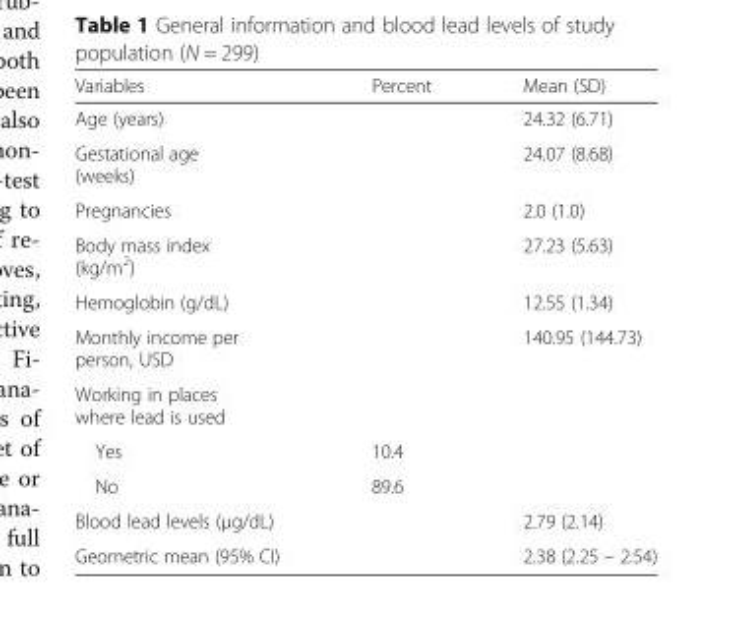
<table><thead><tr><td>Variables</td><td>Percent</td><td>Mean (SD)</td></tr></thead><tbody><tr><td>Age (years)</td><td></td><td>24.32 (6.71)</td></tr><tr><td>Gestational age (weeks)</td><td></td><td>24.07 (8.68)</td></tr><tr><td>Pregnancies</td><td></td><td>2.0 (1.0)</td></tr><tr><td>Body mass index (kg/m<sup>2</sup>)</td><td></td><td>27.23 (5.63)</td></tr><tr><td>Hemoglobin (g/dL)</td><td></td><td>12.55 (1.34)</td></tr><tr><td>Monthly income per person, USD</td><td></td><td>140.95 (144.73)</td></tr><tr><td colspan="3">Working in places where lead is used</td></tr><tr><td>Yes</td><td>10.4</td><td></td></tr><tr><td>No</td><td>89.6</td><td></td></tr><tr><td>Blood lead levels (μg/dL)</td><td></td><td>2.79 (2.14)</td></tr><tr><td>Geometric mean (95% CI)</td><td></td><td>2.38 (2.25 – 2.54)</td></tr></tbody></table>